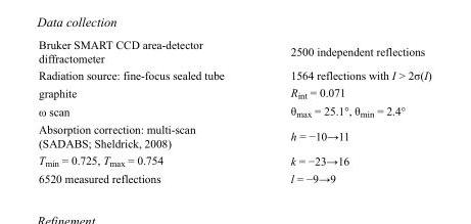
<table><tbody><tr><td>Bruker SMART CCD area-detector diffractometer</td><td>2500 independent reflections</td></tr><tr><td>Radiation source: fine-focus sealed tube</td><td>1564 reflections with I &gt; 2σ(I)</td></tr><tr><td>graphite</td><td>R<sub>int</sub> = 0.071</td></tr><tr><td>ω scan</td><td>θ<sub>max</sub> = 25.1°, θ<sub>min</sub> = 2.4°</td></tr><tr><td>Absorption correction: multi-scan (SADABS; Sheldrick, 2008)</td><td>h = −10→11</td></tr><tr><td>T<sub>min</sub> = 0.725, T<sub>max</sub> = 0.754</td><td>k = −23→16</td></tr><tr><td>6520 measured reflections</td><td>l = −9→9</td></tr></tbody></table>